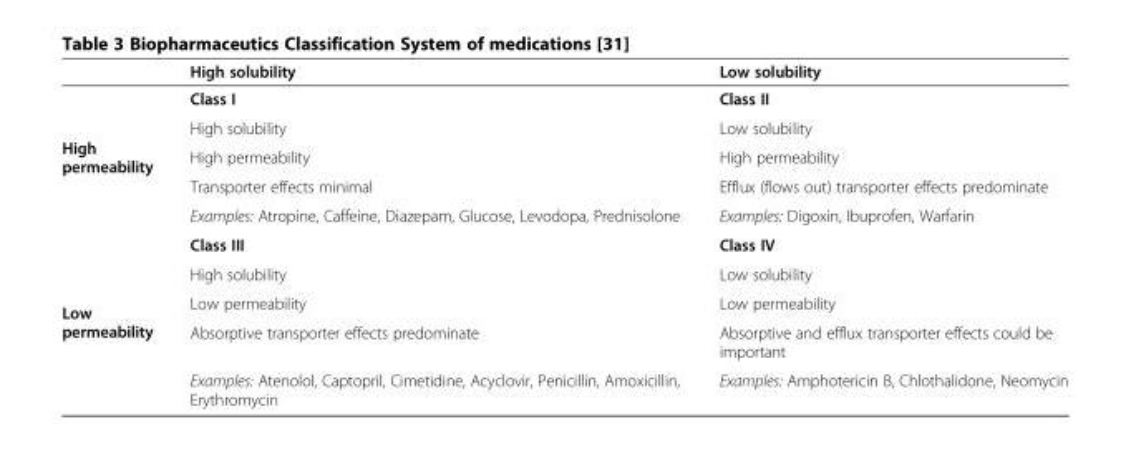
<table><thead><tr><td></td><td>High solubility</td><td>Low solubility</td></tr></thead><tbody><tr><td rowspan="5">High permeability</td><td>Class I</td><td>Class II</td></tr><tr><td>High solubility</td><td>Low solubility</td></tr><tr><td>High permeability</td><td>High permeability</td></tr><tr><td>Transporter effects minimal</td><td>Efflux (flows out) transporter effects predominate</td></tr><tr><td>Examples: Atropine, Caffeine, Diazepam, Glucose, Levodopa, Prednisolone</td><td>Examples: Digoxin, Ibuprofen, Warfarin</td></tr><tr><td rowspan="5">Low permeability</td><td>Class III</td><td>Class IV</td></tr><tr><td>High solubility</td><td>Low solubility</td></tr><tr><td>Low permeability</td><td>Low permeability</td></tr><tr><td>Absorptive transporter effects predominate</td><td>Absorptive and efflux transporter effects could be important</td></tr><tr><td>Examples: Atenolol, Captopril, Cimetidine, Acyclovir, Penicillin, Amoxicillin, Erythromycin</td><td>Examples: Amphotericin B, Chlothalidone, Neomycin</td></tr></tbody></table>